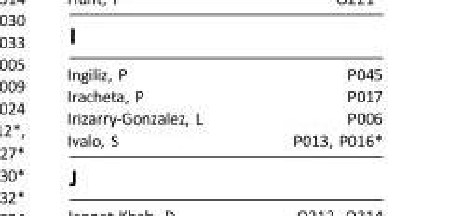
<table><tbody><tr><td>Ingiliz, P</td><td>P045</td></tr><tr><td>Iracheta, P</td><td>P017</td></tr><tr><td>Irizarry-Gonzalez, L</td><td>P006</td></tr><tr><td>Ivalo, S</td><td>P013, P016*</td></tr></tbody></table>